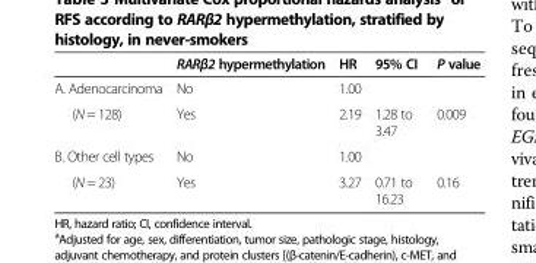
<table><thead><tr><td></td><td>RARβ2 hypermethylation</td><td>HR</td><td>95% CI</td><td>P value</td></tr></thead><tbody><tr><td>A. Adenocarcinoma</td><td>No</td><td>1.00</td><td></td><td></td></tr><tr><td>(N = 128)</td><td>Yes</td><td>2.19</td><td>1.28 to 3.47</td><td>0.009</td></tr><tr><td>B. Other cell types</td><td>No</td><td>1.00</td><td></td><td></td></tr><tr><td>(N = 23)</td><td>Yes</td><td>3.27</td><td>0.71 to 16.23</td><td>0.16</td></tr></tbody></table>